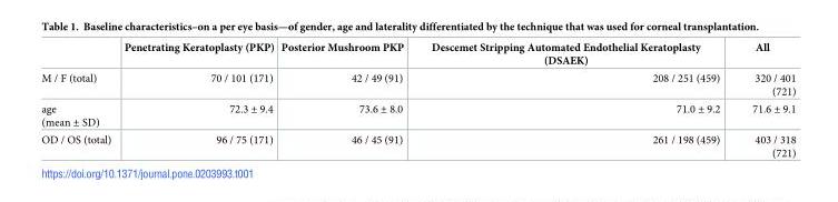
<table><thead><tr><td></td><td>Penetrating Keratoplasty (PKP)</td><td>Posterior Mushroom PKP</td><td>Descemet Stripping Automated Endothelial Keratoplasty (DSAEK)</td><td>All</td></tr></thead><tbody><tr><td>M / F (total)</td><td>70 / 101 (171)</td><td>42 / 49 (91)</td><td>208 / 251 (459)</td><td>320 / 401 (721)</td></tr><tr><td>age (mean ± SD)</td><td>72.3 ± 9.4</td><td>73.6 ± 8.0</td><td>71.0 ± 9.2</td><td>71.6 ± 9.1</td></tr><tr><td>OD / OS (total)</td><td>96 / 75 (171)</td><td>46 / 45 (91)</td><td>261 / 198 (459)</td><td>403 / 318 (721)</td></tr></tbody></table>